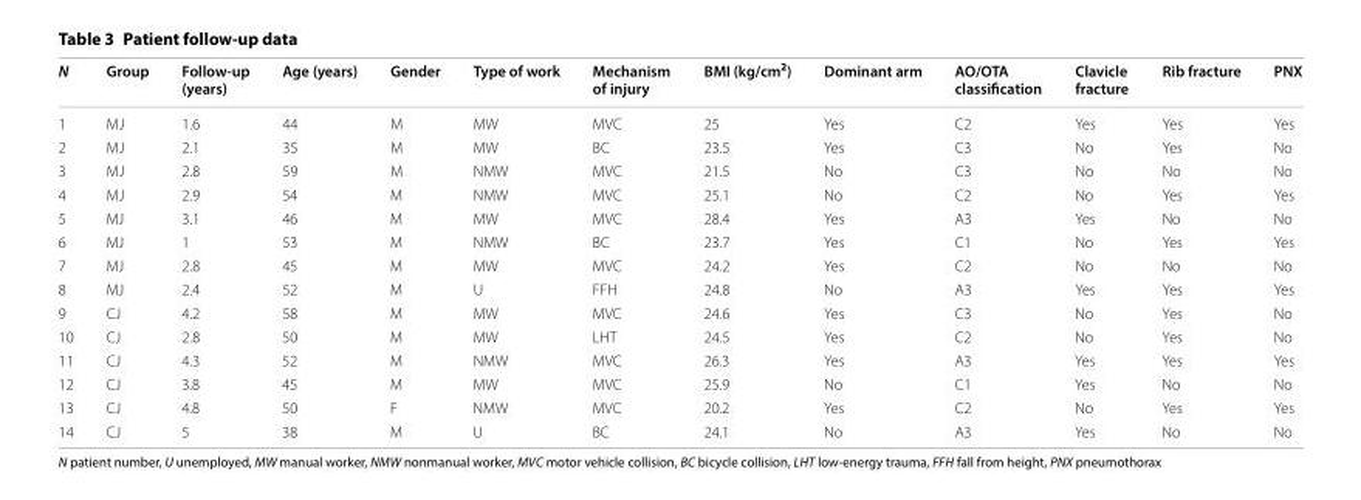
<table><thead><tr><td>N</td><td>Group</td><td>Follow-up (years)</td><td>Age (years)</td><td>Gender</td><td>Type of work</td><td>Mechanism of injury</td><td>BMI (kg/cm<sup>2</sup>)</td><td>Dominant arm</td><td>AO/OTA classification</td><td>Clavicle fracture</td><td>Rib fracture</td><td>PNX</td></tr></thead><tbody><tr><td>1</td><td>MJ</td><td>1.6</td><td>44</td><td>M</td><td>MW</td><td>MVC</td><td>25</td><td>Yes</td><td>C2</td><td>Yes</td><td>Yes</td><td>Yes</td></tr><tr><td>2</td><td>MJ</td><td>2.1</td><td>35</td><td>M</td><td>MW</td><td>BC</td><td>23.5</td><td>Yes</td><td>C3</td><td>No</td><td>Yes</td><td>No</td></tr><tr><td>3</td><td>MJ</td><td>2.8</td><td>59</td><td>M</td><td>NMW</td><td>MVC</td><td>21.5</td><td>No</td><td>C3</td><td>No</td><td>No</td><td>No</td></tr><tr><td>4</td><td>MJ</td><td>2.9</td><td>54</td><td>M</td><td>NMW</td><td>MVC</td><td>25.1</td><td>No</td><td>C2</td><td>No</td><td>Yes</td><td>Yes</td></tr><tr><td>5</td><td>MJ</td><td>3.1</td><td>46</td><td>M</td><td>MW</td><td>MVC</td><td>28.4</td><td>Yes</td><td>A3</td><td>Yes</td><td>No</td><td>No</td></tr><tr><td>6</td><td>MJ</td><td>1</td><td>53</td><td>M</td><td>NMW</td><td>BC</td><td>23.7</td><td>Yes</td><td>C1</td><td>No</td><td>Yes</td><td>Yes</td></tr><tr><td>7</td><td>MJ</td><td>2.8</td><td>45</td><td>M</td><td>MW</td><td>MVC</td><td>24.2</td><td>Yes</td><td>C2</td><td>No</td><td>No</td><td>No</td></tr><tr><td>8</td><td>MJ</td><td>2.4</td><td>52</td><td>M</td><td>U</td><td>FFH</td><td>24.8</td><td>No</td><td>A3</td><td>Yes</td><td>Yes</td><td>Yes</td></tr><tr><td>9</td><td>CJ</td><td>4.2</td><td>58</td><td>M</td><td>MW</td><td>MVC</td><td>24.6</td><td>Yes</td><td>C3</td><td>No</td><td>Yes</td><td>No</td></tr><tr><td>10</td><td>CJ</td><td>2.8</td><td>50</td><td>M</td><td>MW</td><td>LHT</td><td>24.5</td><td>Yes</td><td>C2</td><td>No</td><td>Yes</td><td>No</td></tr><tr><td>11</td><td>CJ</td><td>4.3</td><td>52</td><td>M</td><td>NMW</td><td>MVC</td><td>26.3</td><td>Yes</td><td>A3</td><td>Yes</td><td>Yes</td><td>Yes</td></tr><tr><td>12</td><td>CJ</td><td>3.8</td><td>45</td><td>M</td><td>MW</td><td>MVC</td><td>25.9</td><td>No</td><td>C1</td><td>Yes</td><td>No</td><td>No</td></tr><tr><td>13</td><td>CJ</td><td>4.8</td><td>50</td><td>F</td><td>NMW</td><td>MVC</td><td>20.2</td><td>Yes</td><td>C2</td><td>No</td><td>Yes</td><td>Yes</td></tr><tr><td>14</td><td>CJ</td><td>5</td><td>38</td><td>M</td><td>U</td><td>BC</td><td>24.1</td><td>No</td><td>A3</td><td>Yes</td><td>No</td><td>No</td></tr></tbody></table>